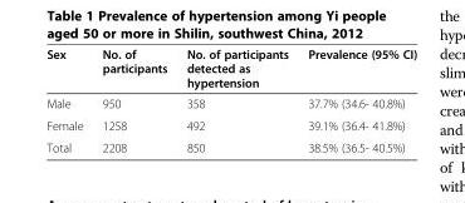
<table><thead><tr><td>Sex</td><td>No. of participants</td><td>No. of participants detected as hypertension</td><td>Prevalence (95% CI)</td></tr></thead><tbody><tr><td>Male</td><td>950</td><td>358</td><td>37.7% (34.6- 40.8%)</td></tr><tr><td>Female</td><td>1258</td><td>492</td><td>39.1% (36.4- 41.8%)</td></tr><tr><td>Total</td><td>2208</td><td>850</td><td>38.5% (36.5- 40.5%)</td></tr></tbody></table>